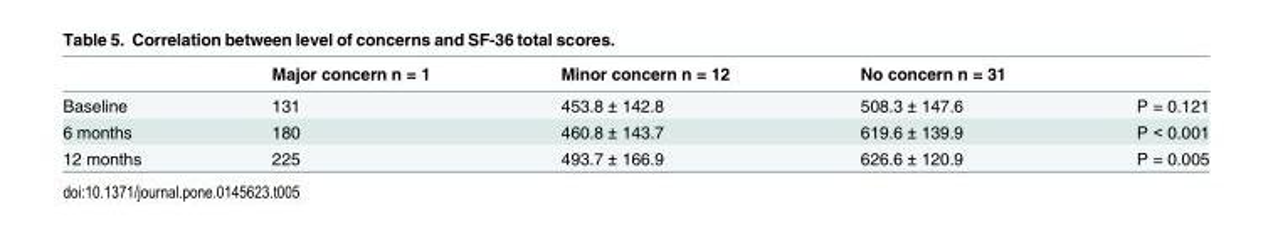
<table><thead><tr><td></td><td>Major concern n = 1</td><td>Minor concern n = 12</td><td>No concern n = 31</td><td></td></tr></thead><tbody><tr><td>Baseline</td><td>131</td><td>453.8 ± 142.8</td><td>508.3 ± 147.6</td><td>P = 0.121</td></tr><tr><td>6 months</td><td>180</td><td>460.8 ± 143.7</td><td>619.6 ± 139.9</td><td>P &lt; 0.001</td></tr><tr><td>12 months</td><td>225</td><td>493.7 ± 166.9</td><td>626.6 ± 120.9</td><td>P = 0.005</td></tr></tbody></table>